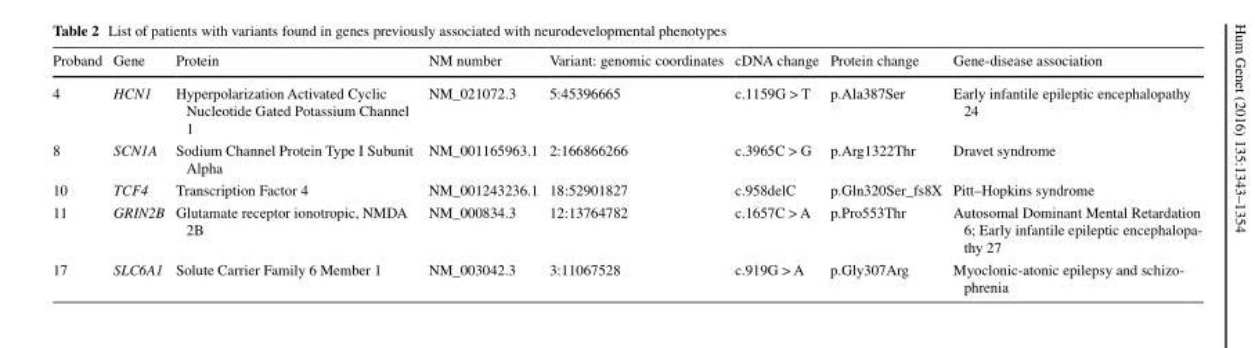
<table><thead><tr><td>Proband</td><td>Gene</td><td>Protein</td><td>NM number</td><td>Variant: genomic coordinates</td><td>cDNA change</td><td>Protein change</td><td>Gene-disease association</td></tr></thead><tbody><tr><td>4</td><td>HCN1</td><td>Hyperpolarization Activated Cyclic Nucleotide Gated Potassium Channel 1</td><td>NM_021072.3</td><td>5:45396665</td><td>c.1159G &gt; T</td><td>p.Ala387Ser</td><td>Early infantile epileptic encephalopathy 24</td></tr><tr><td>8</td><td>SCN1A</td><td>Sodium Channel Protein Type I Subunit Alpha</td><td>NM_001165963.1</td><td>2:166866266</td><td>c.3965C &gt; G</td><td>p.Arg1322Thr</td><td>Dravet syndrome</td></tr><tr><td>10</td><td>TCF4</td><td>Transcription Factor 4</td><td>NM_001243236.1</td><td>18:52901827</td><td>c.958delC</td><td>p.Gln320Ser_fs8X</td><td>Pitt–Hopkins syndrome</td></tr><tr><td>11</td><td>GRIN2B</td><td>Glutamate receptor ionotropic, NMDA 2B</td><td>NM_000834.3</td><td>12:13764782</td><td>c.1657C &gt; A</td><td>p.Pro553Thr</td><td>Autosomal Dominant Mental Retardation 6; Early infantile epileptic encephalopa- thy 27</td></tr><tr><td>17</td><td>SLC6A1</td><td>Solute Carrier Family 6 Member 1</td><td>NM_003042.3</td><td>3:11067528</td><td>c.919G &gt; A</td><td>p.Gly307Arg</td><td>Myoclonic-atonic epilepsy and schizo- phrenia</td></tr></tbody></table>